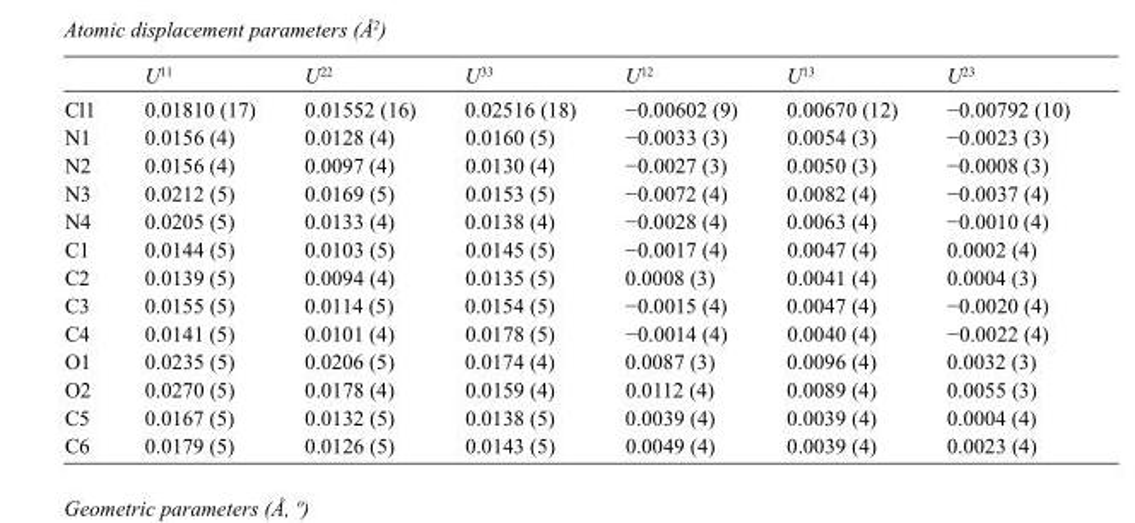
<table><thead><tr><td></td><td>U<sup>11</sup></td><td>U<sup>22</sup></td><td>U<sup>33</sup></td><td>U<sup>12</sup></td><td>U<sup>13</sup></td><td>U<sup>23</sup></td></tr></thead><tbody><tr><td>Cl1</td><td>0.01810 (17)</td><td>0.01552 (16)</td><td>0.02516 (18)</td><td>−0.00602 (9)</td><td>0.00670 (12)</td><td>−0.00792 (10)</td></tr><tr><td>N1</td><td>0.0156 (4)</td><td>0.0128 (4)</td><td>0.0160 (5)</td><td>−0.0033 (3)</td><td>0.0054 (3)</td><td>−0.0023 (3)</td></tr><tr><td>N2</td><td>0.0156 (4)</td><td>0.0097 (4)</td><td>0.0130 (4)</td><td>−0.0027 (3)</td><td>0.0050 (3)</td><td>−0.0008 (3)</td></tr><tr><td>N3</td><td>0.0212 (5)</td><td>0.0169 (5)</td><td>0.0153 (5)</td><td>−0.0072 (4)</td><td>0.0082 (4)</td><td>−0.0037 (4)</td></tr><tr><td>N4</td><td>0.0205 (5)</td><td>0.0133 (4)</td><td>0.0138 (4)</td><td>−0.0028 (4)</td><td>0.0063 (4)</td><td>−0.0010 (4)</td></tr><tr><td>C1</td><td>0.0144 (5)</td><td>0.0103 (5)</td><td>0.0145 (5)</td><td>−0.0017 (4)</td><td>0.0047 (4)</td><td>0.0002 (4)</td></tr><tr><td>C2</td><td>0.0139 (5)</td><td>0.0094 (4)</td><td>0.0135 (5)</td><td>0.0008 (3)</td><td>0.0041 (4)</td><td>0.0004 (3)</td></tr><tr><td>C3</td><td>0.0155 (5)</td><td>0.0114 (5)</td><td>0.0154 (5)</td><td>−0.0015 (4)</td><td>0.0047 (4)</td><td>−0.0020 (4)</td></tr><tr><td>C4</td><td>0.0141 (5)</td><td>0.0101 (4)</td><td>0.0178 (5)</td><td>−0.0014 (4)</td><td>0.0040 (4)</td><td>−0.0022 (4)</td></tr><tr><td>O1</td><td>0.0235 (5)</td><td>0.0206 (5)</td><td>0.0174 (4)</td><td>0.0087 (3)</td><td>0.0096 (4)</td><td>0.0032 (3)</td></tr><tr><td>O2</td><td>0.0270 (5)</td><td>0.0178 (4)</td><td>0.0159 (4)</td><td>0.0112 (4)</td><td>0.0089 (4)</td><td>0.0055 (3)</td></tr><tr><td>C5</td><td>0.0167 (5)</td><td>0.0132 (5)</td><td>0.0138 (5)</td><td>0.0039 (4)</td><td>0.0039 (4)</td><td>0.0004 (4)</td></tr><tr><td>C6</td><td>0.0179 (5)</td><td>0.0126 (5)</td><td>0.0143 (5)</td><td>0.0049 (4)</td><td>0.0039 (4)</td><td>0.0023 (4)</td></tr></tbody></table>